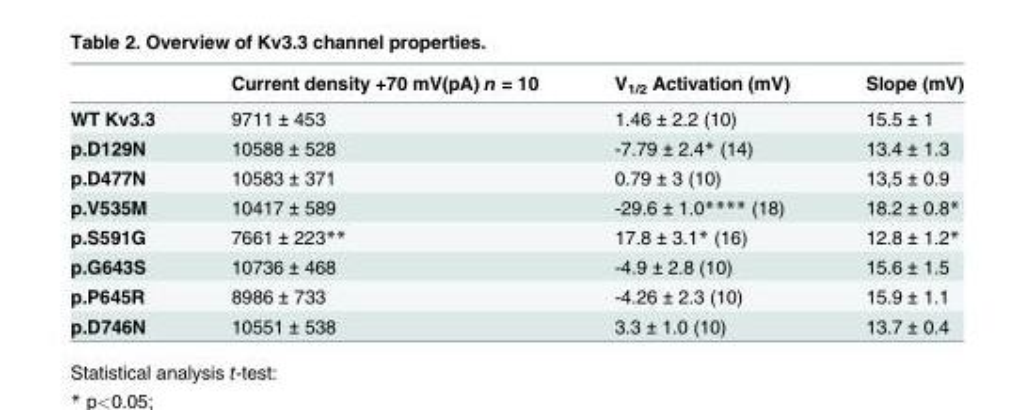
<table><thead><tr><td></td><td>Current density +70 mV(pA) n = 10</td><td>V<sub>1/2</sub> Activation (mV)</td><td>Slope (mV)</td></tr></thead><tbody><tr><td>WT Kv3.3</td><td>9711 ± 453</td><td>1.46 ± 2.2 (10)</td><td>15.5 ± 1</td></tr><tr><td>p.D129N</td><td>10588 ± 528</td><td>-7.79 ± 2.4* (14)</td><td>13.4 ± 1.3</td></tr><tr><td>p.D477N</td><td>10583 ± 371</td><td>0.79 ± 3 (10)</td><td>13,5 ± 0.9</td></tr><tr><td>p.V535M</td><td>10417 ± 589</td><td>-29.6 ± 1.0**** (18)</td><td>18.2 ± 0.8*</td></tr><tr><td>p.S591G</td><td>7661 ± 223**</td><td>17.8 ± 3.1* (16)</td><td>12.8 ± 1.2*</td></tr><tr><td>p.G643S</td><td>10736 ± 468</td><td>-4.9 ± 2.8 (10)</td><td>15.6 ± 1.5</td></tr><tr><td>p.P645R</td><td>8986 ± 733</td><td>-4.26 ± 2.3 (10)</td><td>15.9 ± 1.1</td></tr><tr><td>p.D746N</td><td>10551 ± 538</td><td>3.3 ± 1.0 (10)</td><td>13.7 ± 0.4</td></tr></tbody></table>